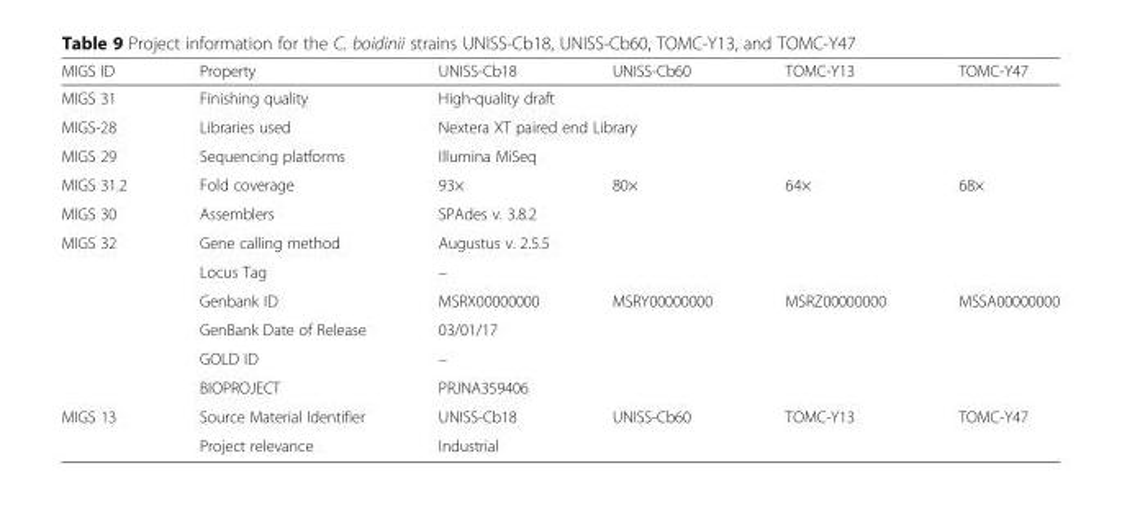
<table><thead><tr><td>MIGS ID</td><td>Property</td><td>UNISS-Cb18</td><td>UNISS-Cb60</td><td>TOMC-Y13</td><td>TOMC-Y47</td></tr></thead><tbody><tr><td>MIGS 31</td><td>Finishing quality</td><td colspan="4">High-quality draft</td></tr><tr><td>MIGS-28</td><td>Libraries used</td><td colspan="4">Nextera XT paired end Library</td></tr><tr><td>MIGS 29</td><td>Sequencing platforms</td><td colspan="4">Illumina MiSeq</td></tr><tr><td>MIGS 31.2</td><td>Fold coverage</td><td>93×</td><td>80×</td><td>64×</td><td>68×</td></tr><tr><td>MIGS 30</td><td>Assemblers</td><td colspan="4">SPAdes v. 3.8.2</td></tr><tr><td rowspan="6">MIGS 32</td><td>Gene calling method</td><td colspan="4">Augustus v. 2.5.5</td></tr><tr><td>Locus Tag</td><td>–</td><td></td><td></td><td></td></tr><tr><td>Genbank ID</td><td>MSRX00000000</td><td>MSRY00000000</td><td>MSRZ00000000</td><td>MSSA00000000</td></tr><tr><td>GenBank Date of Release</td><td colspan="4">03/01/17</td></tr><tr><td>GOLD ID</td><td colspan="4">–</td></tr><tr><td>BIOPROJECT</td><td colspan="4">PRJNA359406</td></tr><tr><td rowspan="2">MIGS 13</td><td>Source Material Identifier</td><td>UNISS-Cb18</td><td>UNISS-Cb60</td><td>TOMC-Y13</td><td>TOMC-Y47</td></tr><tr><td>Project relevance</td><td colspan="4">Industrial</td></tr></tbody></table>